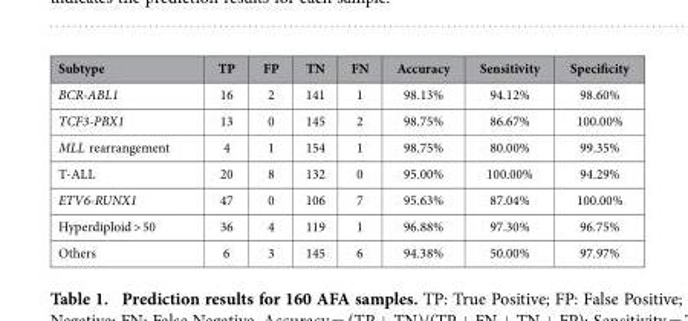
<table><thead><tr><td>Subtype</td><td>TP</td><td>FP</td><td>TN</td><td>FN</td><td>Accuracy</td><td>Sensitivity</td><td>Specificity</td></tr></thead><tbody><tr><td>BCR-ABL1</td><td>16</td><td>2</td><td>141</td><td>1</td><td>98.13%</td><td>94.12%</td><td>98.60%</td></tr><tr><td>TCF3-PBX1</td><td>13</td><td>0</td><td>145</td><td>2</td><td>98.75%</td><td>86.67%</td><td>100.00%</td></tr><tr><td>MLL rearrangement</td><td>4</td><td>1</td><td>154</td><td>1</td><td>98.75%</td><td>80.00%</td><td>99.35%</td></tr><tr><td>T-ALL</td><td>20</td><td>8</td><td>132</td><td>0</td><td>95.00%</td><td>100.00%</td><td>94.29%</td></tr><tr><td>ETV6-RUNX1</td><td>47</td><td>0</td><td>106</td><td>7</td><td>95.63%</td><td>87.04%</td><td>100.00%</td></tr><tr><td>Hyperdiploid &gt; 50</td><td>36</td><td>4</td><td>119</td><td>1</td><td>96.88%</td><td>97.30%</td><td>96.75%</td></tr><tr><td>Others</td><td>6</td><td>3</td><td>145</td><td>6</td><td>94.38%</td><td>50.00%</td><td>97.97%</td></tr></tbody></table>